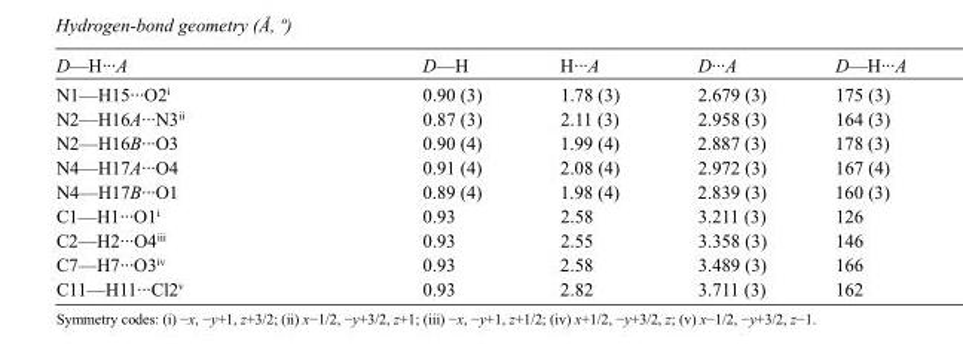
<table><tbody><tr><td>D—H···A</td><td>D—H</td><td>H···A</td><td>D···A</td><td>D—H···A</td></tr><tr><td>N1—H15···O2<sup>i</sup></td><td>0.90 (3)</td><td>1.78 (3)</td><td>2.679 (3)</td><td>175 (3)</td></tr><tr><td>N2—H16A···N3<sup>ii</sup></td><td>0.87 (3)</td><td>2.11 (3)</td><td>2.958 (3)</td><td>164 (3)</td></tr><tr><td>N2—H16B···O3</td><td>0.90 (4)</td><td>1.99 (4)</td><td>2.887 (3)</td><td>178 (3)</td></tr><tr><td>N4—H17A···O4</td><td>0.91 (4)</td><td>2.08 (4)</td><td>2.972 (3)</td><td>167 (4)</td></tr><tr><td>N4—H17B···O1</td><td>0.89 (4)</td><td>1.98 (4)</td><td>2.839 (3)</td><td>160 (3)</td></tr><tr><td>C1—H1···O1<sup>i</sup></td><td>0.93</td><td>2.58</td><td>3.211 (3)</td><td>126</td></tr><tr><td>C2—H2···O4<sup>iii</sup></td><td>0.93</td><td>2.55</td><td>3.358 (3)</td><td>146</td></tr><tr><td>C7—H7···O3<sup>iv</sup></td><td>0.93</td><td>2.58</td><td>3.489 (3)</td><td>166</td></tr><tr><td>C11—H11···Cl2<sup>v</sup></td><td>0.93</td><td>2.82</td><td>3.711 (3)</td><td>162</td></tr></tbody></table>